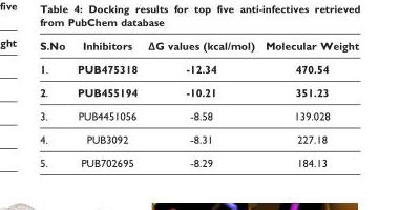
<table><thead><tr><td>S.No</td><td>Inhibitors</td><td>ΔG values (kcal/mol)</td><td>Molecular Weight</td></tr></thead><tbody><tr><td>1.</td><td>PUB475318</td><td>-12.34</td><td>470.54</td></tr><tr><td>2.</td><td>PUB455194</td><td>-10.21</td><td>351.23</td></tr><tr><td>3.</td><td>PUB4451056</td><td>-8.58</td><td>139.028</td></tr><tr><td>4.</td><td>PUB3092</td><td>-8.31</td><td>227.18</td></tr><tr><td>5.</td><td>PUB702695</td><td>-8.29</td><td>184.13</td></tr></tbody></table>